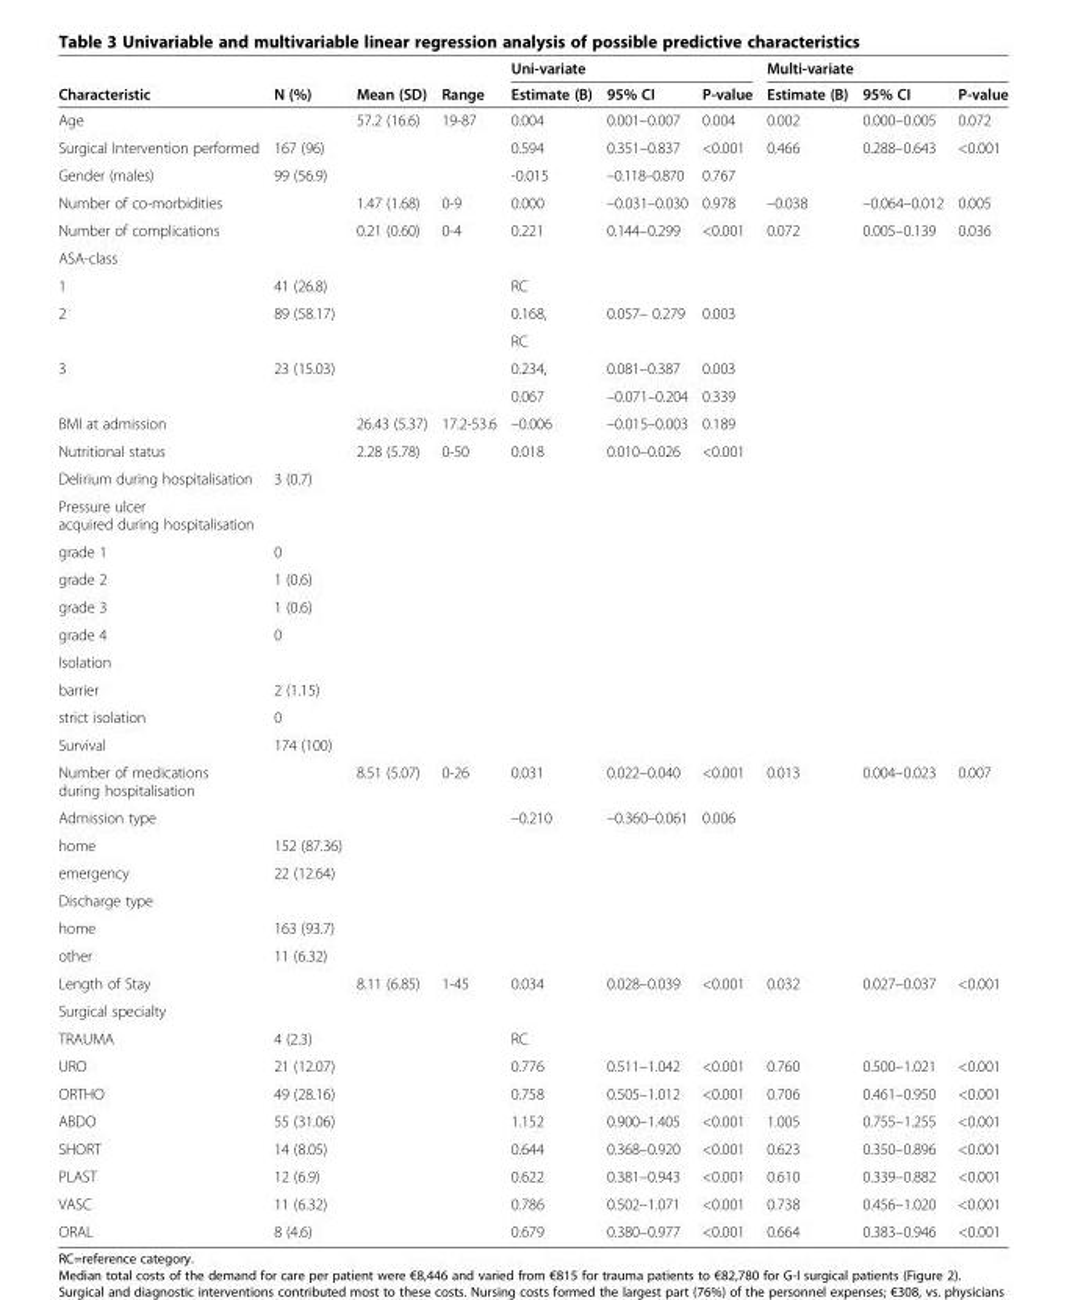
<table><thead><tr><td rowspan="2">Characteristic</td><td rowspan="2">N (%)</td><td rowspan="2">Mean (SD)</td><td rowspan="2">Range</td><td colspan="3">Uni-variate</td><td colspan="3">Multi-variate</td></tr><tr><td>Estimate (B)</td><td>95% CI</td><td>P-value</td><td>Estimate (B)</td><td>95% CI</td><td>P-value</td></tr></thead><tbody><tr><td>Age</td><td></td><td>57.2 (16.6)</td><td>19-87</td><td>0.004</td><td>0.001–0.007</td><td>0.004</td><td>0.002</td><td>0.000–0.005</td><td>0.072</td></tr><tr><td>Surgical Intervention performed</td><td>167 (96)</td><td></td><td></td><td>0.594</td><td>0.351–0.837</td><td>&lt;0.001</td><td>0.466</td><td>0.288–0.643</td><td>&lt;0.001</td></tr><tr><td>Gender (males)</td><td>99 (56.9)</td><td></td><td></td><td>-0.015</td><td>–0.118–0.870</td><td>0.767</td><td></td><td></td><td></td></tr><tr><td>Number of co-morbidities</td><td></td><td>1.47 (1.68)</td><td>0-9</td><td>0.000</td><td>–0.031–0.030</td><td>0.978</td><td>–0.038</td><td>–0.064–0.012</td><td>0.005</td></tr><tr><td>Number of complications</td><td></td><td>0.21 (0.60)</td><td>0-4</td><td>0.221</td><td>0.144–0.299</td><td>&lt;0.001</td><td>0.072</td><td>0.005–0.139</td><td>0.036</td></tr><tr><td colspan="10">ASA-class</td></tr><tr><td>1</td><td>41 (26.8)</td><td></td><td></td><td>RC</td><td></td><td></td><td></td><td></td><td></td></tr><tr><td rowspan="2">2</td><td>89 (58.17)</td><td></td><td></td><td>0.168,</td><td>0.057– 0.279</td><td>0.003</td><td></td><td></td><td></td></tr><tr><td></td><td></td><td></td><td>RC</td><td></td><td></td><td></td><td></td><td></td></tr><tr><td rowspan="2">3</td><td>23 (15.03)</td><td></td><td></td><td>0.234,</td><td>0.081–0.387</td><td>0.003</td><td></td><td></td><td></td></tr><tr><td></td><td></td><td></td><td>0.067</td><td>–0.071–0.204</td><td>0.339</td><td></td><td></td><td></td></tr><tr><td>BMI at admission</td><td></td><td>26.43 (5.37)</td><td>17.2-53.6</td><td>–0.006</td><td>–0.015–0.003</td><td>0.189</td><td></td><td></td><td></td></tr><tr><td>Nutritional status</td><td></td><td>2.28 (5.78)</td><td>0-50</td><td>0.018</td><td>0.010–0.026</td><td>&lt;0.001</td><td></td><td></td><td></td></tr><tr><td>Delirium during hospitalisation</td><td>3 (0.7)</td><td></td><td></td><td></td><td></td><td></td><td></td><td></td><td></td></tr><tr><td colspan="10">Pressure ulcer acquired during hospitalisation</td></tr><tr><td>grade 1</td><td>0</td><td></td><td></td><td></td><td></td><td></td><td></td><td></td><td></td></tr><tr><td>grade 2</td><td>1 (0.6)</td><td></td><td></td><td></td><td></td><td></td><td></td><td></td><td></td></tr><tr><td>grade 3</td><td>1 (0.6)</td><td></td><td></td><td></td><td></td><td></td><td></td><td></td><td></td></tr><tr><td>grade 4</td><td>0</td><td></td><td></td><td></td><td></td><td></td><td></td><td></td><td></td></tr><tr><td colspan="10">Isolation</td></tr><tr><td>barrier</td><td>2 (1.15)</td><td></td><td></td><td></td><td></td><td></td><td></td><td></td><td></td></tr><tr><td>strict isolation</td><td>0</td><td></td><td></td><td></td><td></td><td></td><td></td><td></td><td></td></tr><tr><td>Survival</td><td>174 (100)</td><td></td><td></td><td></td><td></td><td></td><td></td><td></td><td></td></tr><tr><td>Number of medications during hospitalisation</td><td></td><td>8.51 (5.07)</td><td>0-26</td><td>0.031</td><td>0.022–0.040</td><td>&lt;0.001</td><td>0.013</td><td>0.004–0.023</td><td>0.007</td></tr><tr><td>Admission type</td><td></td><td></td><td></td><td>–0.210</td><td>–0.360–0.061</td><td>0.006</td><td></td><td></td><td></td></tr><tr><td>home</td><td>152 (87.36)</td><td></td><td></td><td></td><td></td><td></td><td></td><td></td><td></td></tr><tr><td>emergency</td><td>22 (12.64)</td><td></td><td></td><td></td><td></td><td></td><td></td><td></td><td></td></tr><tr><td colspan="10">Discharge type</td></tr><tr><td>home</td><td>163 (93.7)</td><td></td><td></td><td></td><td></td><td></td><td></td><td></td><td></td></tr><tr><td>other</td><td>11 (6.32)</td><td></td><td></td><td></td><td></td><td></td><td></td><td></td><td></td></tr><tr><td>Length of Stay</td><td></td><td>8.11 (6.85)</td><td>1-45</td><td>0.034</td><td>0.028–0.039</td><td>&lt;0.001</td><td>0.032</td><td>0.027–0.037</td><td>&lt;0.001</td></tr><tr><td colspan="10">Surgical specialty</td></tr><tr><td>TRAUMA</td><td>4 (2.3)</td><td></td><td></td><td>RC</td><td></td><td></td><td></td><td></td><td></td></tr><tr><td>URO</td><td>21 (12.07)</td><td></td><td></td><td>0.776</td><td>0.511–1.042</td><td>&lt;0.001</td><td>0.760</td><td>0.500–1.021</td><td>&lt;0.001</td></tr><tr><td>ORTHO</td><td>49 (28.16)</td><td></td><td></td><td>0.758</td><td>0.505–1.012</td><td>&lt;0.001</td><td>0.706</td><td>0.461–0.950</td><td>&lt;0.001</td></tr><tr><td>ABDO</td><td>55 (31.06)</td><td></td><td></td><td>1.152</td><td>0.900–1.405</td><td>&lt;0.001</td><td>1.005</td><td>0.755–1.255</td><td>&lt;0.001</td></tr><tr><td>SHORT</td><td>14 (8.05)</td><td></td><td></td><td>0.644</td><td>0.368–0.920</td><td>&lt;0.001</td><td>0.623</td><td>0.350–0.896</td><td>&lt;0.001</td></tr><tr><td>PLAST</td><td>12 (6.9)</td><td></td><td></td><td>0.622</td><td>0.381–0.943</td><td>&lt;0.001</td><td>0.610</td><td>0.339–0.882</td><td>&lt;0.001</td></tr><tr><td>VASC</td><td>11 (6.32)</td><td></td><td></td><td>0.786</td><td>0.502–1.071</td><td>&lt;0.001</td><td>0.738</td><td>0.456–1.020</td><td>&lt;0.001</td></tr><tr><td>ORAL</td><td>8 (4.6)</td><td></td><td></td><td>0.679</td><td>0.380–0.977</td><td>&lt;0.001</td><td>0.664</td><td>0.383–0.946</td><td>&lt;0.001</td></tr></tbody></table>